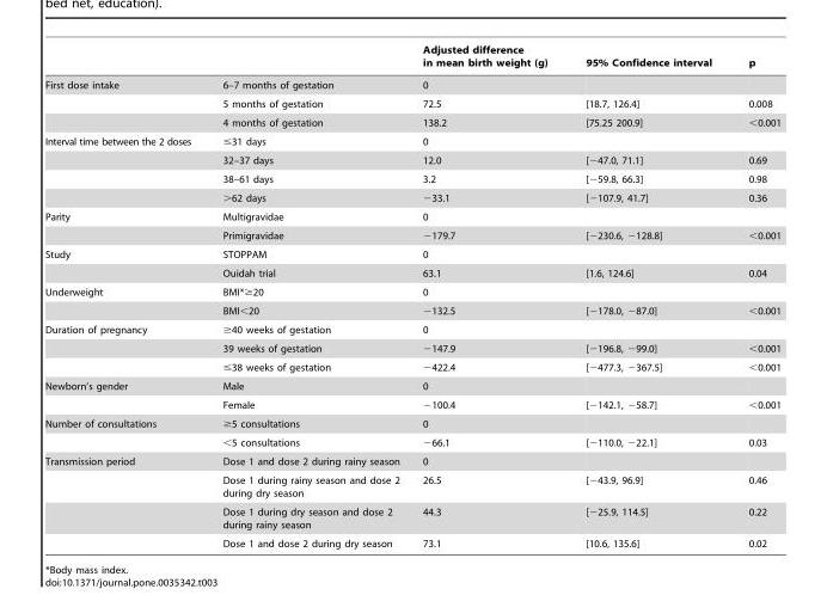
<table><thead><tr><td></td><td></td><td>Adjusted difference in mean birth weight (g)</td><td>95% Confidence interval</td><td>p</td></tr></thead><tbody><tr><td rowspan="3">First dose intake</td><td>6–7 months of gestation</td><td>0</td><td></td><td></td></tr><tr><td>5 months of gestation</td><td>72.5</td><td>[18.7, 126.4]</td><td>0.008</td></tr><tr><td>4 months of gestation</td><td>138.2</td><td>[75.25 200.9]</td><td>&lt;0.001</td></tr><tr><td rowspan="4">Interval time between the 2 doses</td><td>≤31 days</td><td>0</td><td></td><td></td></tr><tr><td>32–37 days</td><td>12.0</td><td>[−47.0, 71.1]</td><td>0.69</td></tr><tr><td>38–61 days</td><td>3.2</td><td>[−59.8, 66.3]</td><td>0.98</td></tr><tr><td>&gt;62 days</td><td>−33.1</td><td>[−107.9, 41.7]</td><td>0.36</td></tr><tr><td rowspan="2">Parity</td><td>Multigravidae</td><td>0</td><td></td><td></td></tr><tr><td>Primigravidae</td><td>−179.7</td><td>[−230.6, −128.8]</td><td>&lt;0.001</td></tr><tr><td rowspan="2">Study</td><td>STOPPAM</td><td>0</td><td></td><td></td></tr><tr><td>Ouidah trial</td><td>63.1</td><td>[1.6, 124.6]</td><td>0.04</td></tr><tr><td rowspan="2">Underweight</td><td>BMI*≥20</td><td>0</td><td></td><td></td></tr><tr><td>BMI&lt;20</td><td>−132.5</td><td>[−178.0, −87.0]</td><td>&lt;0.001</td></tr><tr><td rowspan="3">Duration of pregnancy</td><td>≥40 weeks of gestation</td><td>0</td><td></td><td></td></tr><tr><td>39 weeks of gestation</td><td>−147.9</td><td>[−196.8, −99.0]</td><td>&lt;0.001</td></tr><tr><td>≤38 weeks of gestation</td><td>−422.4</td><td>[−477.3, −367.5]</td><td>&lt;0.001</td></tr><tr><td rowspan="2">Newborn’s gender</td><td>Male</td><td>0</td><td></td><td></td></tr><tr><td>Female</td><td>−100.4</td><td>[−142.1, −58.7]</td><td>&lt;0.001</td></tr><tr><td rowspan="2">Number of consultations</td><td>≥5 consultations</td><td>0</td><td></td><td></td></tr><tr><td>&lt;5 consultations</td><td>−66.1</td><td>[−110.0, −22.1]</td><td>0.03</td></tr><tr><td rowspan="4">Transmission period</td><td>Dose 1 and dose 2 during rainy season</td><td>0</td><td></td><td></td></tr><tr><td>Dose 1 during rainy season and dose 2 during dry season</td><td>26.5</td><td>[−43.9, 96.9]</td><td>0.46</td></tr><tr><td>Dose 1 during dry season and dose 2 during rainy season</td><td>44.3</td><td>[−25.9, 114.5]</td><td>0.22</td></tr><tr><td>Dose 1 and dose 2 during dry season</td><td>73.1</td><td>[10.6, 135.6]</td><td>0.02</td></tr></tbody></table>